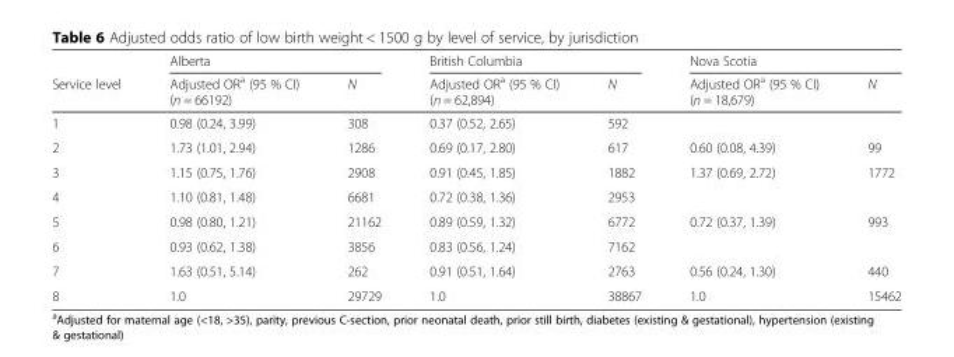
<table><thead><tr><td rowspan="2">Service level</td><td colspan="2">Alberta</td><td colspan="2">British Columbia</td><td colspan="2">Nova Scotia</td></tr><tr><td>Adjusted OR<sup>a</sup> (95 % CI) (n = 66192)</td><td>N</td><td>Adjusted OR<sup>a</sup> (95 % CI) (n = 62,894)</td><td>N</td><td>Adjusted OR<sup>a</sup> (95 % CI) (n = 18,679)</td><td>N</td></tr></thead><tbody><tr><td>1</td><td>0.98 (0.24, 3.99)</td><td>308</td><td>0.37 (0.52, 2.65)</td><td>592</td><td colspan="2"></td></tr><tr><td>2</td><td>1.73 (1.01, 2.94)</td><td>1286</td><td>0.69 (0.17, 2.80)</td><td>617</td><td>0.60 (0.08, 4.39)</td><td>99</td></tr><tr><td>3</td><td>1.15 (0.75, 1.76)</td><td>2908</td><td>0.91 (0.45, 1.85)</td><td>1882</td><td>1.37 (0.69, 2.72)</td><td>1772</td></tr><tr><td>4</td><td>1.10 (0.81, 1.48)</td><td>6681</td><td>0.72 (0.38, 1.36)</td><td>2953</td><td colspan="2"></td></tr><tr><td>5</td><td>0.98 (0.80, 1.21)</td><td>21162</td><td>0.89 (0.59, 1.32)</td><td>6772</td><td>0.72 (0.37, 1.39)</td><td>993</td></tr><tr><td>6</td><td>0.93 (0.62, 1.38)</td><td>3856</td><td>0.83 (0.56, 1.24)</td><td>7162</td><td colspan="2"></td></tr><tr><td>7</td><td>1.63 (0.51, 5.14)</td><td>262</td><td>0.91 (0.51, 1.64)</td><td>2763</td><td>0.56 (0.24, 1.30)</td><td>440</td></tr><tr><td>8</td><td>1.0</td><td>29729</td><td>1.0</td><td>38867</td><td>1.0</td><td>15462</td></tr></tbody></table>